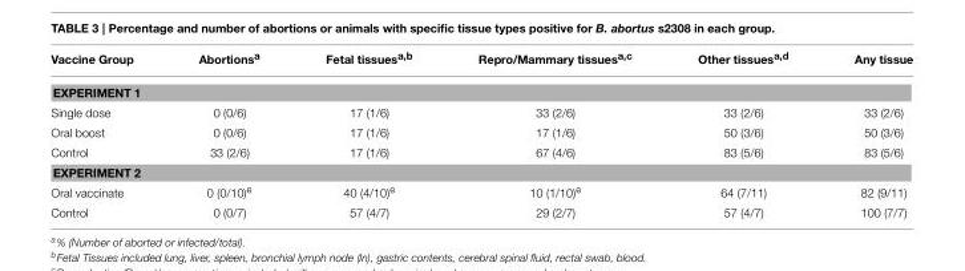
<table><thead><tr><td>Vaccine Group</td><td>Abortions<sup>a</sup></td><td>Fetal tissues<sup>a,b</sup></td><td>Repro/Mammary tissues<sup>a,c</sup></td><td>Other tissues<sup>a,d</sup></td><td>Any tissue</td></tr></thead><tbody><tr><td colspan="6">EXPERIMENT 1</td></tr><tr><td>Single dose</td><td>0 (0/6)</td><td>17 (1/6)</td><td>33 (2/6)</td><td>33 (2/6)</td><td>33 (2/6)</td></tr><tr><td>Oral boost</td><td>0 (0/6)</td><td>17 (1/6)</td><td>17 (1/6)</td><td>50 (3/6)</td><td>50 (3/6)</td></tr><tr><td>Control</td><td>33 (2/6)</td><td>17 (1/6)</td><td>67 (4/6)</td><td>83 (5/6)</td><td>83 (5/6)</td></tr><tr><td colspan="6">EXPERIMENT 2</td></tr><tr><td>Oral vaccinate</td><td>0 (0/10)<sup>e</sup></td><td>40 (4/10)<sup>e</sup></td><td>10 (1/10)<sup>e</sup></td><td>64 (7/11)</td><td>82 (9/11)</td></tr><tr><td>Control</td><td>0 (0/7)</td><td>57 (4/7)</td><td>29 (2/7)</td><td>57 (4/7)</td><td>100 (7/7)</td></tr></tbody></table>